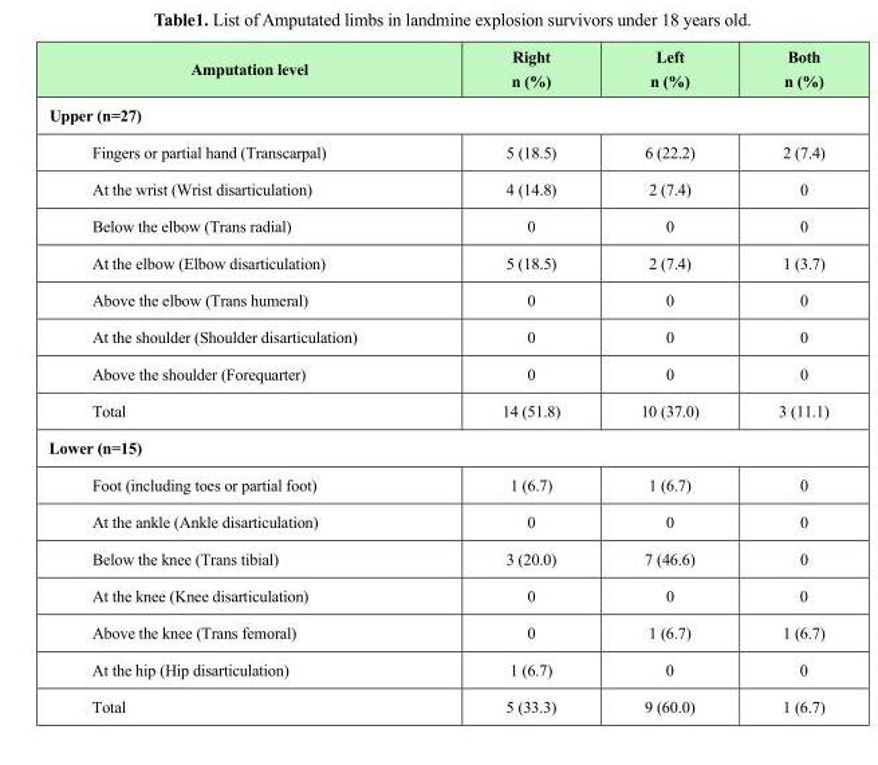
<table><thead><tr><td>Amputation level</td><td>Right n (%)</td><td>Left n (%)</td><td>Both n (%)</td></tr></thead><tbody><tr><td colspan="4">Upper (n=27)</td></tr><tr><td>Fingers or partial hand (Transcarpal)</td><td>5 (18.5)</td><td>6 (22.2)</td><td>2 (7.4)</td></tr><tr><td>At the wrist (Wrist disarticulation)</td><td>4 (14.8)</td><td>2 (7.4)</td><td>0</td></tr><tr><td>Below the elbow (Trans radial)</td><td>0</td><td>0</td><td>0</td></tr><tr><td>At the elbow (Elbow disarticulation)</td><td>5 (18.5)</td><td>2 (7.4)</td><td>1 (3.7)</td></tr><tr><td>Above the elbow (Trans humeral)</td><td>0</td><td>0</td><td>0</td></tr><tr><td>At the shoulder (Shoulder disarticulation)</td><td>0</td><td>0</td><td>0</td></tr><tr><td>Above the shoulder (Forequarter)</td><td>0</td><td>0</td><td>0</td></tr><tr><td>Total</td><td>14 (51.8)</td><td>10 (37.0)</td><td>3 (11.1)</td></tr><tr><td colspan="4">Lower (n=15)</td></tr><tr><td>Foot (including toes or partial foot)</td><td>1 (6.7)</td><td>1 (6.7)</td><td>0</td></tr><tr><td>At the ankle (Ankle disarticulation)</td><td>0</td><td>0</td><td>0</td></tr><tr><td>Below the knee (Trans tibial)</td><td>3 (20.0)</td><td>7 (46.6)</td><td>0</td></tr><tr><td>At the knee (Knee disarticulation)</td><td>0</td><td>0</td><td>0</td></tr><tr><td>Above the knee (Trans femoral)</td><td>0</td><td>1 (6.7)</td><td>1 (6.7)</td></tr><tr><td>At the hip (Hip disarticulation)</td><td>1 (6.7)</td><td>0</td><td>0</td></tr><tr><td>Total</td><td>5 (33.3)</td><td>9 (60.0)</td><td>1 (6.7)</td></tr></tbody></table>